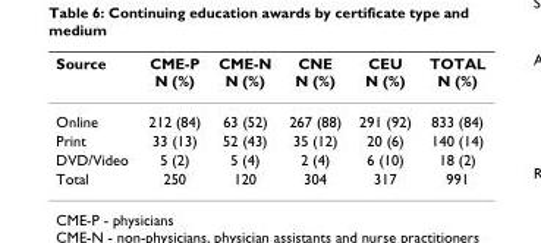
<table><thead><tr><td>Source</td><td>CME-P N (%)</td><td>CME-N N (%)</td><td>CNE N (%)</td><td>CEU N (%)</td><td>TOTAL N (%)</td></tr></thead><tbody><tr><td>Online</td><td>212 (84)</td><td>63 (52)</td><td>267 (88)</td><td>291 (92)</td><td>833 (84)</td></tr><tr><td>Print</td><td>33 (13)</td><td>52 (43)</td><td>35 (12)</td><td>20 (6)</td><td>140 (14)</td></tr><tr><td>DVD/Video</td><td>5 (2)</td><td>5 (4)</td><td>2 (4)</td><td>6 (10)</td><td>18 (2)</td></tr><tr><td>Total</td><td>250</td><td>120</td><td>304</td><td>317</td><td>991</td></tr></tbody></table>